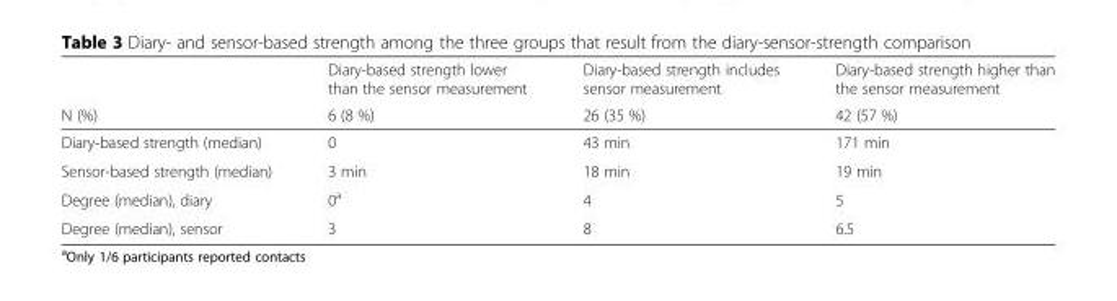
<table><thead><tr><td rowspan="2">N (%)</td><td rowspan="2">Diary-based strength lower than the sensor measurement 6 (8 %)</td><td rowspan="2">Diary-based strength includes sensor measurement 26 (35 %)</td><td rowspan="2">Diary-based strength higher than the sensor measurement 42 (57 %)</td></tr><tr></tr></thead><tbody><tr><td>Diary-based strength (median)</td><td>0</td><td>43 min</td><td>171 min</td></tr><tr><td>Sensor-based strength (median)</td><td>3 min</td><td>18 min</td><td>19 min</td></tr><tr><td>Degree (median), diary</td><td>0<sup>a</sup></td><td>4</td><td>5</td></tr><tr><td>Degree (median), sensor</td><td>3</td><td>8</td><td>6.5</td></tr></tbody></table>